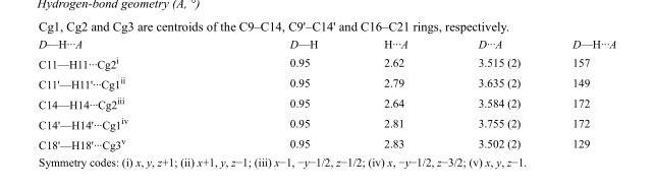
<table><tbody><tr><td>D—H···A</td><td>D—H</td><td>H···A</td><td>D···A</td><td>D—H···A</td></tr><tr><td>C11—H11···Cg2<sup>i</sup></td><td>0.95</td><td>2.62</td><td>3.515 (2)</td><td>157</td></tr><tr><td>C11&#x27;—H11&#x27;···Cg1<sup>ii</sup></td><td>0.95</td><td>2.79</td><td>3.635 (2)</td><td>149</td></tr><tr><td>C14—H14···Cg2<sup>iii</sup></td><td>0.95</td><td>2.64</td><td>3.584 (2)</td><td>172</td></tr><tr><td>C14&#x27;—H14&#x27;···Cg1<sup>iv</sup></td><td>0.95</td><td>2.81</td><td>3.755 (2)</td><td>172</td></tr><tr><td>C18&#x27;—H18&#x27;···Cg3<sup>v</sup></td><td>0.95</td><td>2.83</td><td>3.502 (2)</td><td>129</td></tr></tbody></table>